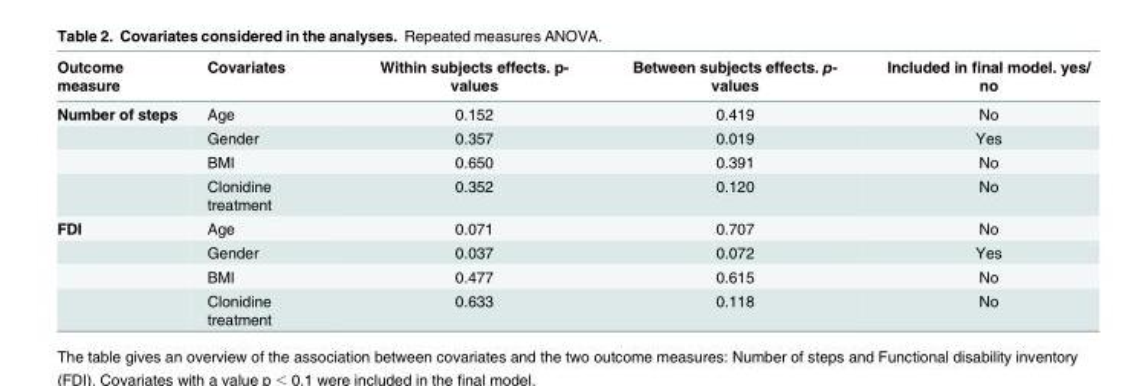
<table><thead><tr><td>Outcome measure</td><td>Covariates</td><td>Within subjects effects. p- values</td><td>Between subjects effects. p- values</td><td>Included in final model. yes/ no</td></tr></thead><tbody><tr><td rowspan="4">Number of steps</td><td>Age</td><td>0.152</td><td>0.419</td><td>No</td></tr><tr><td>Gender</td><td>0.357</td><td>0.019</td><td>Yes</td></tr><tr><td>BMI</td><td>0.650</td><td>0.391</td><td>No</td></tr><tr><td>Clonidine treatment</td><td>0.352</td><td>0.120</td><td>No</td></tr><tr><td rowspan="4">FDI</td><td>Age</td><td>0.071</td><td>0.707</td><td>No</td></tr><tr><td>Gender</td><td>0.037</td><td>0.072</td><td>Yes</td></tr><tr><td>BMI</td><td>0.477</td><td>0.615</td><td>No</td></tr><tr><td>Clonidine treatment</td><td>0.633</td><td>0.118</td><td>No</td></tr></tbody></table>